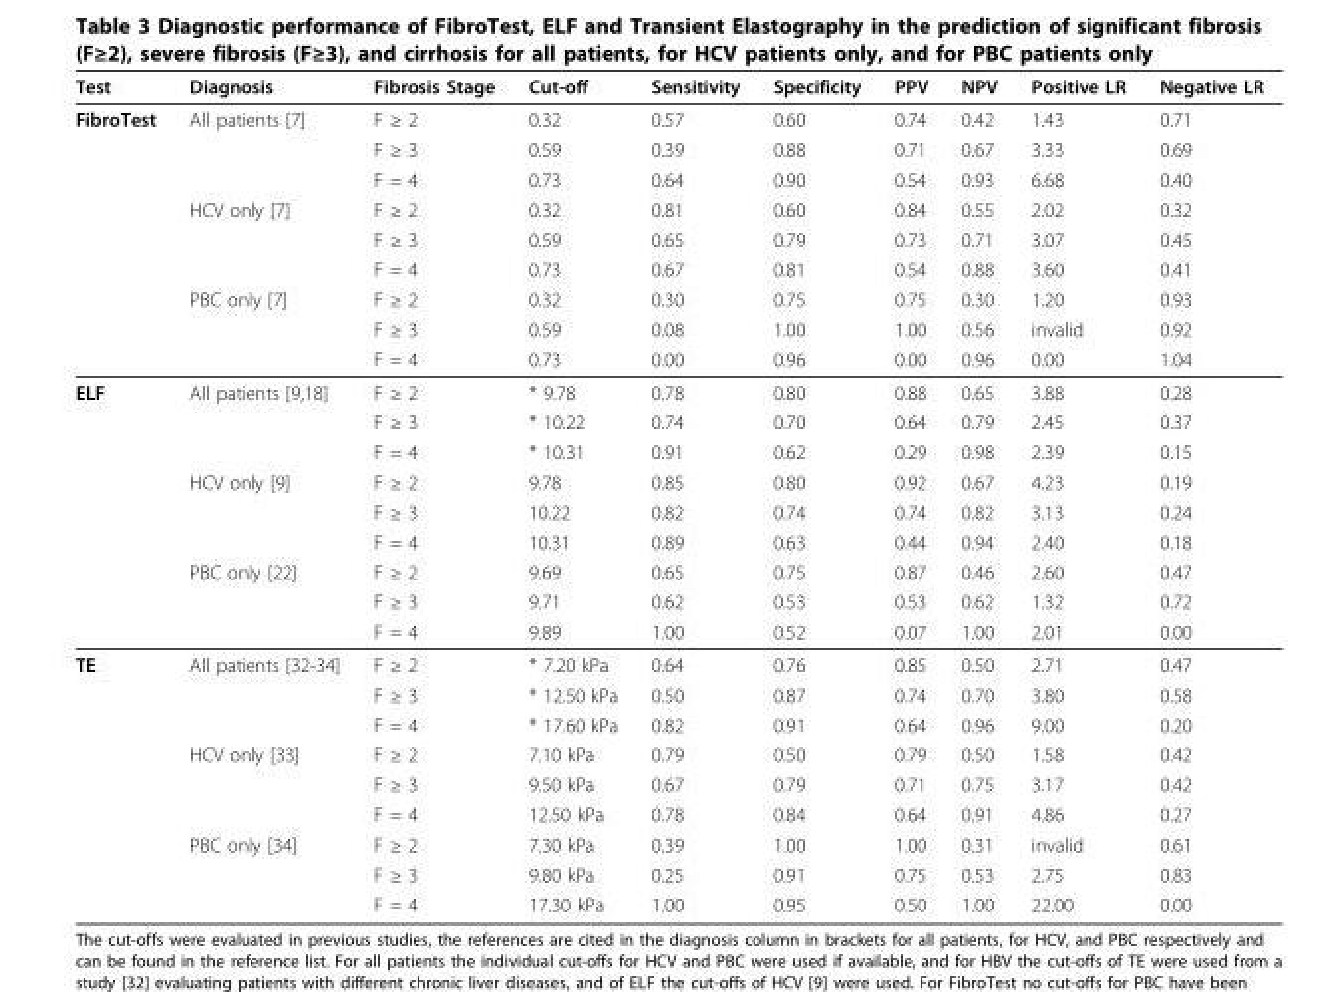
<table><thead><tr><td>Test</td><td>Diagnosis</td><td>Fibrosis Stage</td><td>Cut-off</td><td>Sensitivity</td><td>Specificity</td><td>PPV</td><td>NPV</td><td>Positive LR</td><td>Negative LR</td></tr></thead><tbody><tr><td rowspan="9">FibroTest</td><td>All patients [7]</td><td>F ≥ 2</td><td>0.32</td><td>0.57</td><td>0.60</td><td>0.74</td><td>0.42</td><td>1.43</td><td>0.71</td></tr><tr><td></td><td>F ≥ 3</td><td>0.59</td><td>0.39</td><td>0.88</td><td>0.71</td><td>0.67</td><td>3.33</td><td>0.69</td></tr><tr><td></td><td>F = 4</td><td>0.73</td><td>0.64</td><td>0.90</td><td>0.54</td><td>0.93</td><td>6.68</td><td>0.40</td></tr><tr><td>HCV only [7]</td><td>F ≥ 2</td><td>0.32</td><td>0.81</td><td>0.60</td><td>0.84</td><td>0.55</td><td>2.02</td><td>0.32</td></tr><tr><td></td><td>F ≥ 3</td><td>0.59</td><td>0.65</td><td>0.79</td><td>0.73</td><td>0.71</td><td>3.07</td><td>0.45</td></tr><tr><td></td><td>F = 4</td><td>0.73</td><td>0.67</td><td>0.81</td><td>0.54</td><td>0.88</td><td>3.60</td><td>0.41</td></tr><tr><td>PBC only [7]</td><td>F ≥ 2</td><td>0.32</td><td>0.30</td><td>0.75</td><td>0.75</td><td>0.30</td><td>1.20</td><td>0.93</td></tr><tr><td></td><td>F ≥ 3</td><td>0.59</td><td>0.08</td><td>1.00</td><td>1.00</td><td>0.56</td><td>invalid</td><td>0.92</td></tr><tr><td></td><td>F = 4</td><td>0.73</td><td>0.00</td><td>0.96</td><td>0.00</td><td>0.96</td><td>0.00</td><td>1.04</td></tr><tr><td rowspan="9">ELF</td><td>All patients [9,18]</td><td>F ≥ 2</td><td>* 9.78</td><td>0.78</td><td>0.80</td><td>0.88</td><td>0.65</td><td>3.88</td><td>0.28</td></tr><tr><td></td><td>F ≥ 3</td><td>* 10.22</td><td>0.74</td><td>0.70</td><td>0.64</td><td>0.79</td><td>2.45</td><td>0.37</td></tr><tr><td></td><td>F = 4</td><td>* 10.31</td><td>0.91</td><td>0.62</td><td>0.29</td><td>0.98</td><td>2.39</td><td>0.15</td></tr><tr><td>HCV only [9]</td><td>F ≥ 2</td><td>9.78</td><td>0.85</td><td>0.80</td><td>0.92</td><td>0.67</td><td>4.23</td><td>0.19</td></tr><tr><td></td><td>F ≥ 3</td><td>10.22</td><td>0.82</td><td>0.74</td><td>0.74</td><td>0.82</td><td>3.13</td><td>0.24</td></tr><tr><td></td><td>F = 4</td><td>10.31</td><td>0.89</td><td>0.63</td><td>0.44</td><td>0.94</td><td>2.40</td><td>0.18</td></tr><tr><td>PBC only [22]</td><td>F ≥ 2</td><td>9.69</td><td>0.65</td><td>0.75</td><td>0.87</td><td>0.46</td><td>2.60</td><td>0.47</td></tr><tr><td></td><td>F ≥ 3</td><td>9.71</td><td>0.62</td><td>0.53</td><td>0.53</td><td>0.62</td><td>1.32</td><td>0.72</td></tr><tr><td></td><td>F = 4</td><td>9.89</td><td>1.00</td><td>0.52</td><td>0.07</td><td>1.00</td><td>2.01</td><td>0.00</td></tr><tr><td rowspan="9">TE</td><td>All patients [32-34]</td><td>F ≥ 2</td><td>* 7.20 kPa</td><td>0.64</td><td>0.76</td><td>0.85</td><td>0.50</td><td>2.71</td><td>0.47</td></tr><tr><td></td><td>F ≥ 3</td><td>* 12.50 kPa</td><td>0.50</td><td>0.87</td><td>0.74</td><td>0.70</td><td>3.80</td><td>0.58</td></tr><tr><td></td><td>F = 4</td><td>* 17.60 kPa</td><td>0.82</td><td>0.91</td><td>0.64</td><td>0.96</td><td>9.00</td><td>0.20</td></tr><tr><td>HCV only [33]</td><td>F ≥ 2</td><td>7.10 kPa</td><td>0.79</td><td>0.50</td><td>0.79</td><td>0.50</td><td>1.58</td><td>0.42</td></tr><tr><td></td><td>F ≥ 3</td><td>9.50 kPa</td><td>0.67</td><td>0.79</td><td>0.71</td><td>0.75</td><td>3.17</td><td>0.42</td></tr><tr><td></td><td>F = 4</td><td>12.50 kPa</td><td>0.78</td><td>0.84</td><td>0.64</td><td>0.91</td><td>4.86</td><td>0.27</td></tr><tr><td>PBC only [34]</td><td>F ≥ 2</td><td>7.30 kPa</td><td>0.39</td><td>1.00</td><td>1.00</td><td>0.31</td><td>invalid</td><td>0.61</td></tr><tr><td></td><td>F ≥ 3</td><td>9.80 kPa</td><td>0.25</td><td>0.91</td><td>0.75</td><td>0.53</td><td>2.75</td><td>0.83</td></tr><tr><td></td><td>F = 4</td><td>17.30 kPa</td><td>1.00</td><td>0.95</td><td>0.50</td><td>1.00</td><td>22.00</td><td>0.00</td></tr></tbody></table>